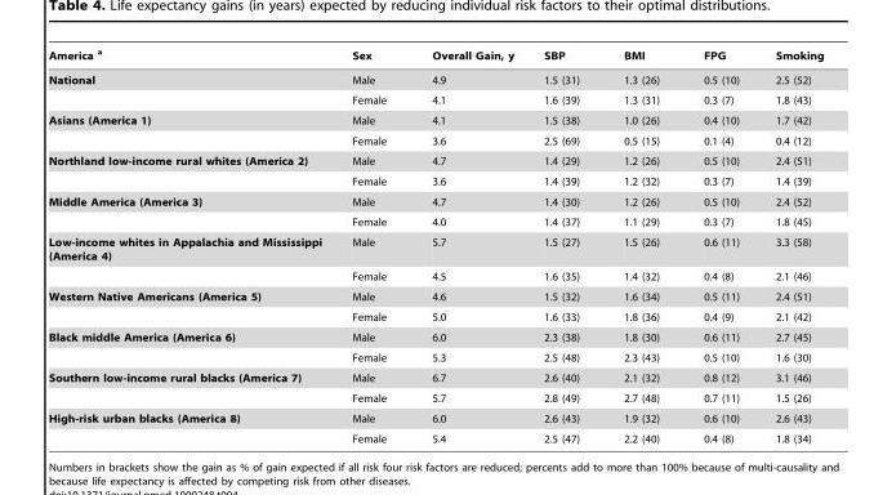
<table><thead><tr><td>America <sup>a</sup></td><td>Sex</td><td>Overall Gain, y</td><td>SBP</td><td>BMI</td><td>FPG</td><td>Smoking</td></tr></thead><tbody><tr><td rowspan="2">National</td><td>Male</td><td>4.9</td><td>1.5 (31)</td><td>1.3 (26)</td><td>0.5 (10)</td><td>2.5 (52)</td></tr><tr><td>Female</td><td>4.1</td><td>1.6 (39)</td><td>1.3 (31)</td><td>0.3 (7)</td><td>1.8 (43)</td></tr><tr><td rowspan="2">Asians (America 1)</td><td>Male</td><td>4.1</td><td>1.5 (38)</td><td>1.0 (26)</td><td>0.4 (10)</td><td>1.7 (42)</td></tr><tr><td>Female</td><td>3.6</td><td>2.5 (69)</td><td>0.5 (15)</td><td>0.1 (4)</td><td>0.4 (12)</td></tr><tr><td rowspan="2">Northland low-income rural whites (America 2)</td><td>Male</td><td>4.7</td><td>1.4 (29)</td><td>1.2 (26)</td><td>0.5 (10)</td><td>2.4 (51)</td></tr><tr><td>Female</td><td>3.6</td><td>1.4 (39)</td><td>1.2 (32)</td><td>0.3 (7)</td><td>1.4 (39)</td></tr><tr><td rowspan="2">Middle America (America 3)</td><td>Male</td><td>4.7</td><td>1.4 (30)</td><td>1.2 (26)</td><td>0.5 (10)</td><td>2.4 (52)</td></tr><tr><td>Female</td><td>4.0</td><td>1.4 (37)</td><td>1.1 (29)</td><td>0.3 (7)</td><td>1.8 (45)</td></tr><tr><td rowspan="2">Low-income whites in Appalachia and Mississippi (America 4)</td><td>Male</td><td>5.7</td><td>1.5 (27)</td><td>1.5 (26)</td><td>0.6 (11)</td><td>3.3 (58)</td></tr><tr><td>Female</td><td>4.5</td><td>1.6 (35)</td><td>1.4 (32)</td><td>0.4 (8)</td><td>2.1 (46)</td></tr><tr><td rowspan="2">Western Native Americans (America 5)</td><td>Male</td><td>4.6</td><td>1.5 (32)</td><td>1.6 (34)</td><td>0.5 (11)</td><td>2.4 (51)</td></tr><tr><td>Female</td><td>5.0</td><td>1.6 (33)</td><td>1.8 (36)</td><td>0.4 (9)</td><td>2.1 (42)</td></tr><tr><td rowspan="2">Black middle America (America 6)</td><td>Male</td><td>6.0</td><td>2.3 (38)</td><td>1.8 (30)</td><td>0.6 (11)</td><td>2.7 (45)</td></tr><tr><td>Female</td><td>5.3</td><td>2.5 (48)</td><td>2.3 (43)</td><td>0.5 (10)</td><td>1.6 (30)</td></tr><tr><td rowspan="2">Southern low-income rural blacks (America 7)</td><td>Male</td><td>6.7</td><td>2.6 (40)</td><td>2.1 (32)</td><td>0.8 (12)</td><td>3.1 (46)</td></tr><tr><td>Female</td><td>5.7</td><td>2.8 (49)</td><td>2.7 (48)</td><td>0.7 (11)</td><td>1.5 (26)</td></tr><tr><td rowspan="2">High-risk urban blacks (America 8)</td><td>Male</td><td>6.0</td><td>2.6 (43)</td><td>1.9 (32)</td><td>0.6 (10)</td><td>2.6 (43)</td></tr><tr><td>Female</td><td>5.4</td><td>2.5 (47)</td><td>2.2 (40)</td><td>0.4 (8)</td><td>1.8 (34)</td></tr></tbody></table>